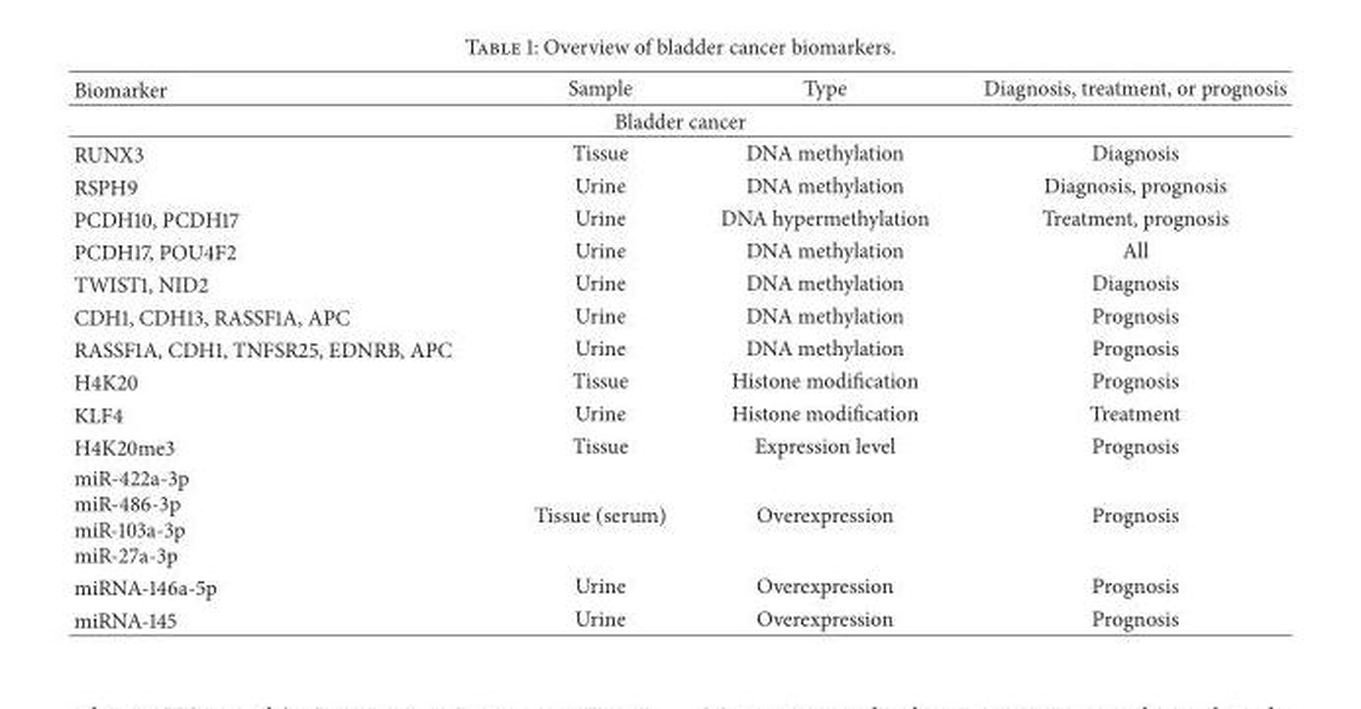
<table><thead><tr><td>Biomarker</td><td>Sample</td><td>Type</td><td>Diagnosis, treatment, or prognosis</td></tr></thead><tbody><tr><td colspan="4">Bladder cancer</td></tr><tr><td>RUNX3</td><td>Tissue</td><td>DNA methylation</td><td>Diagnosis</td></tr><tr><td>RSPH9</td><td>Urine</td><td>DNA methylation</td><td>Diagnosis, prognosis</td></tr><tr><td>PCDH10, PCDH17</td><td>Urine</td><td>DNA hypermethylation</td><td>Treatment, prognosis</td></tr><tr><td>PCDH17, POU4F2</td><td>Urine</td><td>DNA methylation</td><td>All</td></tr><tr><td>TWIST1, NID2</td><td>Urine</td><td>DNA methylation</td><td>Diagnosis</td></tr><tr><td>CDH1, CDH13, RASSF1A, APC</td><td>Urine</td><td>DNA methylation</td><td>Prognosis</td></tr><tr><td>RASSF1A, CDH1, TNFSR25, EDNRB, APC</td><td>Urine</td><td>DNA methylation</td><td>Prognosis</td></tr><tr><td>H4K20</td><td>Tissue</td><td>Histone modification</td><td>Prognosis</td></tr><tr><td>KLF4</td><td>Urine</td><td>Histone modification</td><td>Treatment</td></tr><tr><td>H4K20me3</td><td>Tissue</td><td>Expression level</td><td>Prognosis</td></tr><tr><td>miR-422a-3p miR-486-3p miR-103a-3p miR-27a-3p</td><td>Tissue (serum)</td><td>Overexpression</td><td>Prognosis</td></tr><tr><td>miRNA-146a-5p</td><td>Urine</td><td>Overexpression</td><td>Prognosis</td></tr><tr><td>miRNA-145</td><td>Urine</td><td>Overexpression</td><td>Prognosis</td></tr></tbody></table>